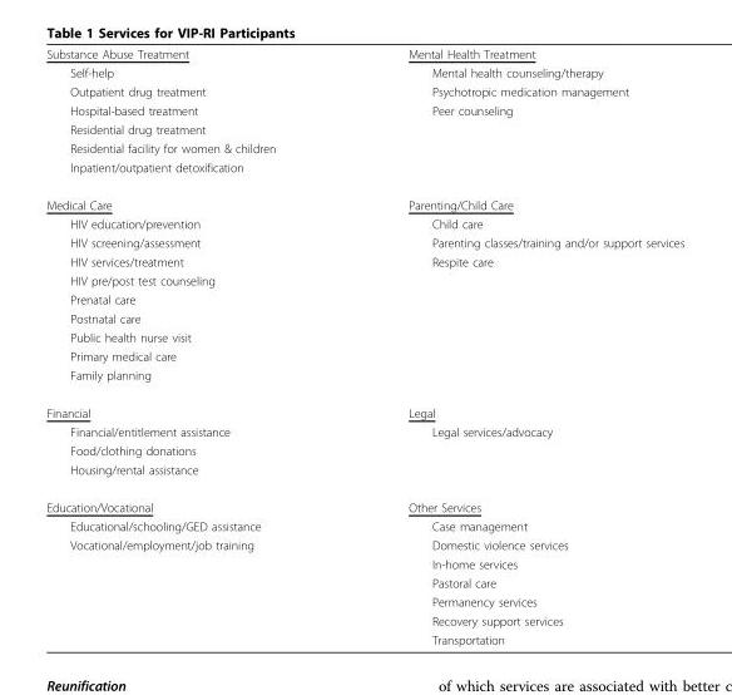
<table><tbody><tr><td>Substance Abuse Treatment</td><td>Mental Health Treatment</td></tr><tr><td>Self-help</td><td>Mental health counseling/therapy</td></tr><tr><td>Outpatient drug treatment</td><td>Psychotropic medication management</td></tr><tr><td>Hospital-based treatment</td><td>Peer counseling</td></tr><tr><td colspan="2">Residential drug treatment</td></tr><tr><td colspan="2">Residential facility for women &amp; children</td></tr><tr><td colspan="2">Inpatient/outpatient detoxification</td></tr><tr><td>Medical Care</td><td>Parenting/Child Care</td></tr><tr><td>HIV education/prevention</td><td>Child care</td></tr><tr><td>HIV screening/assessment</td><td>Parenting classes/training and/or support services</td></tr><tr><td>HIV services/treatment</td><td>Respite care</td></tr><tr><td colspan="2">HIV pre/post test counseling</td></tr><tr><td colspan="2">Prenatal care</td></tr><tr><td colspan="2">Postnatal care</td></tr><tr><td colspan="2">Public health nurse visit</td></tr><tr><td colspan="2">Primary medical care</td></tr><tr><td colspan="2">Family planning</td></tr><tr><td>Financial</td><td>Legal</td></tr><tr><td>Financial/entitlement assistance</td><td>Legal services/advocacy</td></tr><tr><td colspan="2">Food/clothing donations</td></tr><tr><td colspan="2">Housing/rental assistance</td></tr><tr><td>Education/Vocational</td><td>Other Services</td></tr><tr><td>Educational/schooling/GED assistance</td><td>Case management</td></tr><tr><td rowspan="6">Vocational/employment/job training</td><td>Domestic violence services</td></tr><tr><td>In-home services</td></tr><tr><td>Pastoral care</td></tr><tr><td>Permanency services</td></tr><tr><td>Recovery support services</td></tr><tr><td>Transportation</td></tr></tbody></table>